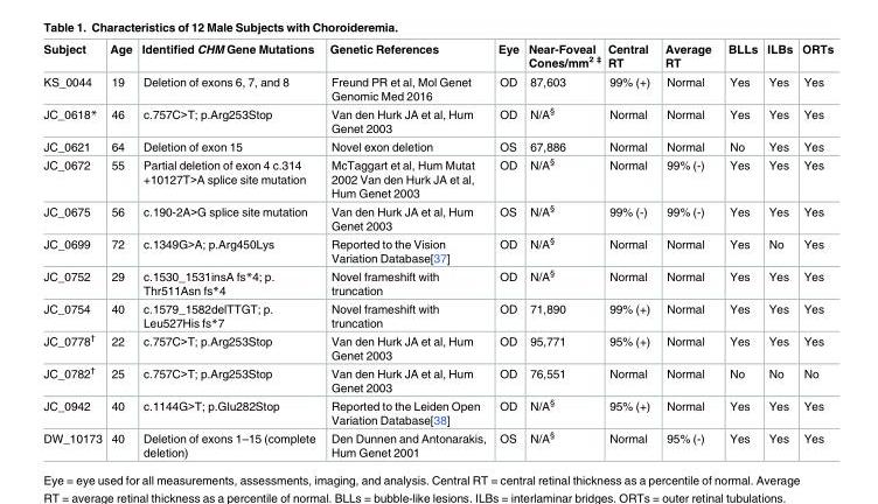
<table><thead><tr><td>Subject</td><td>Age</td><td>Identified CHM Gene Mutations</td><td>Genetic References</td><td>Eye</td><td>Near-Foveal Cones/mm<sup>2 ‡</sup></td><td>Central RT</td><td>Average RT</td><td>BLLs</td><td>ILBs</td><td>ORTs</td></tr></thead><tbody><tr><td>KS_0044</td><td>19</td><td>Deletion of exons 6, 7, and 8</td><td>Freund PR et al, Mol Genet Genomic Med 2016</td><td>OD</td><td>87,603</td><td>99% (+)</td><td>Normal</td><td>Yes</td><td>Yes</td><td>Yes</td></tr><tr><td>JC_0618*</td><td>46</td><td>c.757C&gt;T; p.Arg253Stop</td><td>Van den Hurk JA et al, Hum Genet 2003</td><td>OD</td><td>N/A<sup>§</sup></td><td>Normal</td><td>Normal</td><td>Yes</td><td>Yes</td><td>Yes</td></tr><tr><td>JC_0621</td><td>64</td><td>Deletion of exon 15</td><td>Novel exon deletion</td><td>OS</td><td>67,886</td><td>Normal</td><td>Normal</td><td>No</td><td>Yes</td><td>Yes</td></tr><tr><td>JC_0672</td><td>55</td><td>Partial deletion of exon 4 c.314 +10127T&gt;A splice site mutation</td><td>McTaggart et al, Hum Mutat 2002 Van den Hurk JA et al, Hum Genet 2003</td><td>OD</td><td>N/A<sup>§</sup></td><td>Normal</td><td>99% (-)</td><td>Yes</td><td>Yes</td><td>Yes</td></tr><tr><td>JC_0675</td><td>56</td><td>c.190-2A&gt;G splice site mutation</td><td>Van den Hurk JA et al, Hum Genet 2003</td><td>OS</td><td>N/A<sup>§</sup></td><td>99% (-)</td><td>99% (-)</td><td>Yes</td><td>Yes</td><td>Yes</td></tr><tr><td>JC_0699</td><td>72</td><td>c.1349G&gt;A; p.Arg450Lys</td><td>Reported to the Vision Variation Database[37]</td><td>OD</td><td>N/A<sup>§</sup></td><td>Normal</td><td>Normal</td><td>Yes</td><td>No</td><td>Yes</td></tr><tr><td>JC_0752</td><td>29</td><td>c.1530_1531insA fs*4; p. Thr511Asn fs*4</td><td>Novel frameshift with truncation</td><td>OD</td><td>N/A<sup>§</sup></td><td>Normal</td><td>Normal</td><td>Yes</td><td>Yes</td><td>Yes</td></tr><tr><td>JC_0754</td><td>40</td><td>c.1579_1582delTTGT; p. Leu527His fs*7</td><td>Novel frameshift with truncation</td><td>OD</td><td>71,890</td><td>99% (+)</td><td>Normal</td><td>Yes</td><td>Yes</td><td>Yes</td></tr><tr><td>JC_0778<sup>†</sup></td><td>22</td><td>c.757C&gt;T; p.Arg253Stop</td><td>Van den Hurk JA et al, Hum Genet 2003</td><td>OD</td><td>95,771</td><td>95% (+)</td><td>Normal</td><td>Yes</td><td>Yes</td><td>Yes</td></tr><tr><td>JC_0782<sup>†</sup></td><td>25</td><td>c.757C&gt;T; p.Arg253Stop</td><td>Van den Hurk JA et al, Hum Genet 2003</td><td>OD</td><td>76,551</td><td>Normal</td><td>Normal</td><td>No</td><td>No</td><td>No</td></tr><tr><td>JC_0942</td><td>40</td><td>c.1144G&gt;T; p.Glu282Stop</td><td>Reported to the Leiden Open Variation Database[38]</td><td>OD</td><td>N/A<sup>§</sup></td><td>95% (+)</td><td>Normal</td><td>Yes</td><td>Yes</td><td>Yes</td></tr><tr><td>DW_10173</td><td>40</td><td>Deletion of exons 1–15 (complete deletion)</td><td>Den Dunnen and Antonarakis, Hum Genet 2001</td><td>OS</td><td>N/A<sup>§</sup></td><td>Normal</td><td>95% (-)</td><td>Yes</td><td>Yes</td><td>Yes</td></tr></tbody></table>